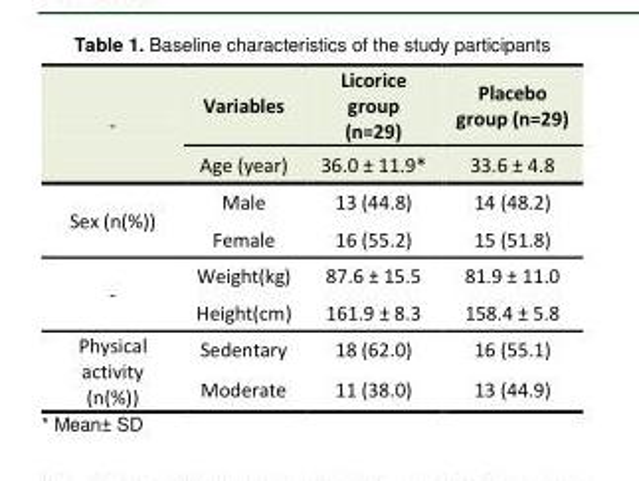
<table><tbody><tr><td rowspan="2">-</td><td>Variables</td><td>Licorice group (n=29)</td><td>Placebo group (n=29)</td></tr><tr><td>Age (year)</td><td>36.0 ± 11.9*</td><td>33.6 ± 4.8</td></tr><tr><td rowspan="2">Sex (n(%))</td><td>Male</td><td>13 (44.8)</td><td>14 (48.2)</td></tr><tr><td>Female</td><td>16 (55.2)</td><td>15 (51.8)</td></tr><tr><td rowspan="2">-</td><td>Weight(kg)</td><td>87.6 ± 15.5</td><td>81.9 ± 11.0</td></tr><tr><td>Height(cm)</td><td>161.9 ± 8.3</td><td>158.4 ± 5.8</td></tr><tr><td rowspan="2">Physical activity (n(%))</td><td>Sedentary</td><td>18 (62.0)</td><td>16 (55.1)</td></tr><tr><td>Moderate</td><td>11 (38.0)</td><td>13 (44.9)</td></tr></tbody></table>